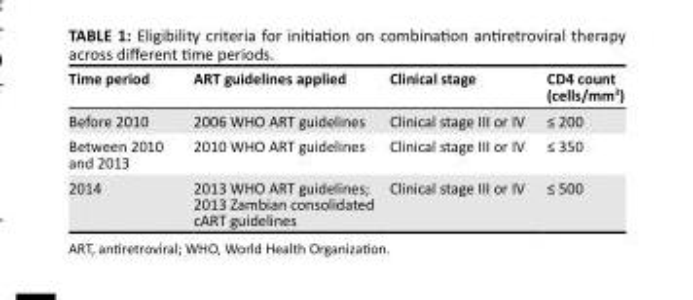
<table><thead><tr><td>Time period</td><td>ART guidelines applied</td><td>Clinical stage</td><td>CD4 count (cells/mm<sup>3</sup>)</td></tr></thead><tbody><tr><td>Before 2010</td><td>2006 WHO ART guidelines</td><td>Clinical stage III or IV</td><td>≤ 200</td></tr><tr><td>Between 2010 and 2013</td><td>2010 WHO ART guidelines</td><td>Clinical stage III or IV</td><td>≤ 350</td></tr><tr><td>2014</td><td>2013 WHO ART guidelines; 2013 Zambian consolidated cART guidelines</td><td>Clinical stage III or IV</td><td>≤ 500</td></tr></tbody></table>